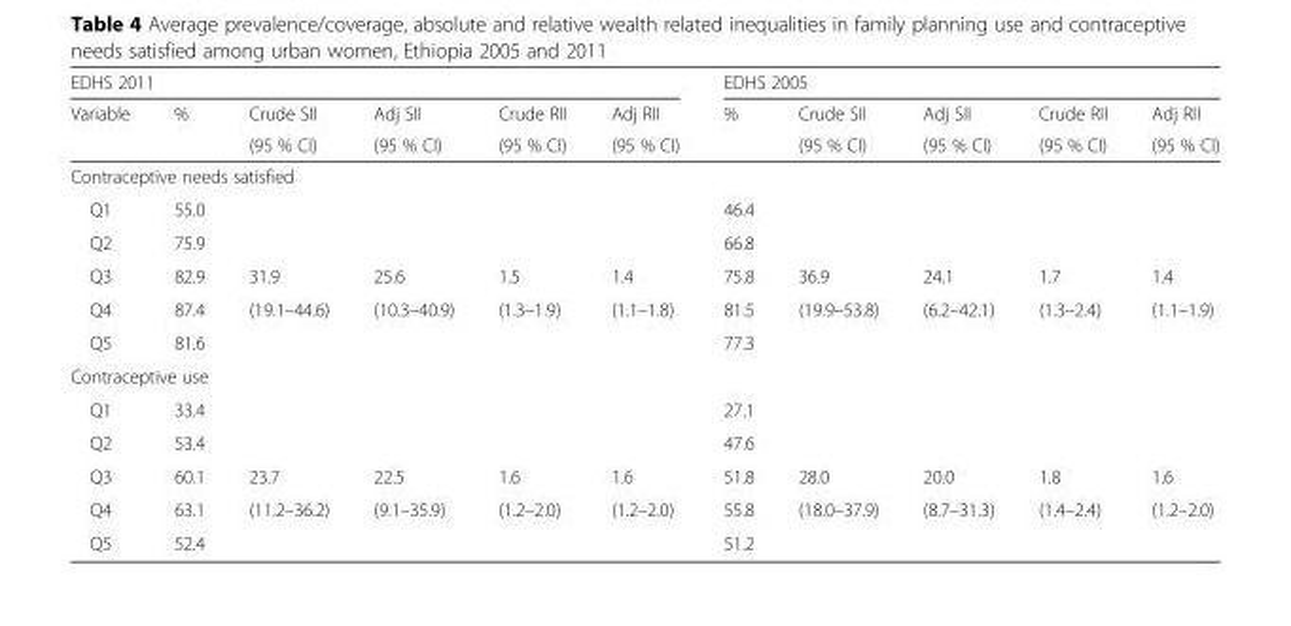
<table><thead><tr><td colspan="6">EDHS 2011</td><td colspan="5">EDHS 2005</td></tr><tr><td rowspan="2">Variable</td><td rowspan="2">%</td><td rowspan="2">Crude SII (95 % CI)</td><td rowspan="2">Adj SII (95 % CI)</td><td rowspan="2">Crude RII (95 % CI)</td><td rowspan="2">Adj RII (95 % CI)</td><td rowspan="2">%</td><td rowspan="2">Crude SII (95 % CI)</td><td rowspan="2">Adj SII (95 % CI)</td><td rowspan="2">Crude RII (95 % CI)</td><td rowspan="2">Adj RII (95 % CI)</td></tr><tr></tr></thead><tbody><tr><td colspan="11">Contraceptive needs satisfied</td></tr><tr><td>Q1</td><td>55.0</td><td></td><td></td><td></td><td></td><td>46.4</td><td></td><td></td><td></td><td></td></tr><tr><td>Q2</td><td>75.9</td><td></td><td></td><td></td><td></td><td>66.8</td><td></td><td></td><td></td><td></td></tr><tr><td>Q3</td><td>82.9</td><td>31.9</td><td>25.6</td><td>1.5</td><td>1.4</td><td>75.8</td><td>36.9</td><td>24.1</td><td>1.7</td><td>1.4</td></tr><tr><td>Q4</td><td>87.4</td><td>(19.1–44.6)</td><td>(10.3–40.9)</td><td>(1.3–1.9)</td><td>(1.1–1.8)</td><td>81.5</td><td>(19.9–53.8)</td><td>(6.2–42.1)</td><td>(1.3–2.4)</td><td>(1.1–1.9)</td></tr><tr><td>Q5</td><td>81.6</td><td></td><td></td><td></td><td></td><td>77.3</td><td></td><td></td><td></td><td></td></tr><tr><td colspan="11">Contraceptive use</td></tr><tr><td>Q1</td><td>33.4</td><td></td><td></td><td></td><td></td><td>27.1</td><td></td><td></td><td></td><td></td></tr><tr><td>Q2</td><td>53.4</td><td></td><td></td><td></td><td></td><td>47.6</td><td></td><td></td><td></td><td></td></tr><tr><td>Q3</td><td>60.1</td><td>23.7</td><td>22.5</td><td>1.6</td><td>1.6</td><td>51.8</td><td>28.0</td><td>20.0</td><td>1.8</td><td>1.6</td></tr><tr><td>Q4</td><td>63.1</td><td>(11.2–36.2)</td><td>(9.1–35.9)</td><td>(1.2–2.0)</td><td>(1.2–2.0)</td><td>55.8</td><td>(18.0–37.9)</td><td>(8.7–31.3)</td><td>(1.4–2.4)</td><td>(1.2–2.0)</td></tr><tr><td>Q5</td><td>52.4</td><td></td><td></td><td></td><td></td><td>51.2</td><td></td><td></td><td></td><td></td></tr></tbody></table>